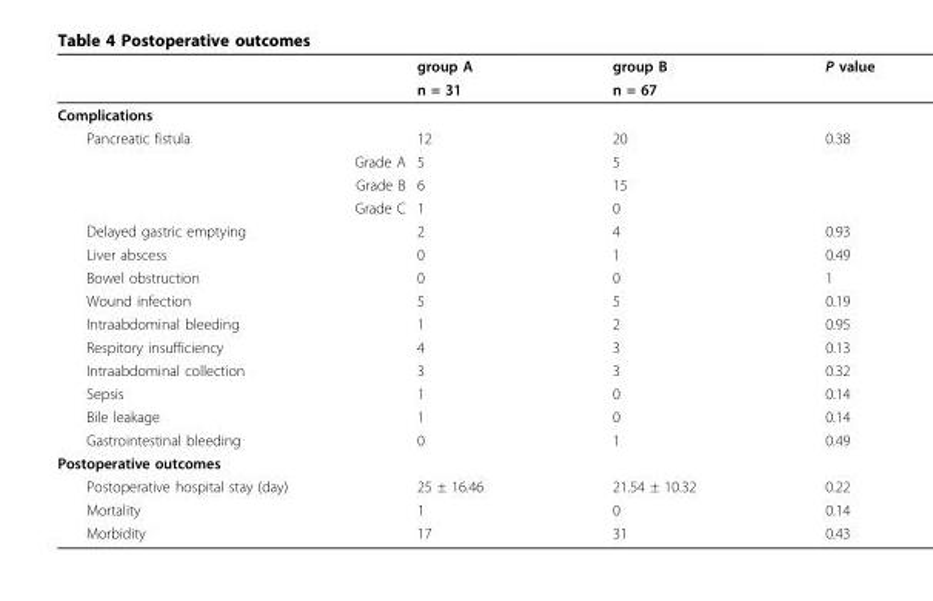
<table><thead><tr><td rowspan="2"></td><td rowspan="2">group A n = 31</td><td rowspan="2">group B n = 67</td><td rowspan="2">P value</td></tr><tr></tr></thead><tbody><tr><td colspan="4">Complications</td></tr><tr><td>Pancreatic fistula</td><td>12</td><td>20</td><td>0.38</td></tr><tr><td>Grade A</td><td>5</td><td>5</td><td></td></tr><tr><td>Grade B</td><td>6</td><td>15</td><td></td></tr><tr><td>Grade C</td><td>1</td><td>0</td><td></td></tr><tr><td>Delayed gastric emptying</td><td>2</td><td>4</td><td>0.93</td></tr><tr><td>Liver abscess</td><td>0</td><td>1</td><td>0.49</td></tr><tr><td>Bowel obstruction</td><td>0</td><td>0</td><td>1</td></tr><tr><td>Wound infection</td><td>5</td><td>5</td><td>0.19</td></tr><tr><td>Intraabdominal bleeding</td><td>1</td><td>2</td><td>0.95</td></tr><tr><td>Respitory insufficiency</td><td>4</td><td>3</td><td>0.13</td></tr><tr><td>Intraabdominal collection</td><td>3</td><td>3</td><td>0.32</td></tr><tr><td>Sepsis</td><td>1</td><td>0</td><td>0.14</td></tr><tr><td>Bile leakage</td><td>1</td><td>0</td><td>0.14</td></tr><tr><td>Gastrointestinal bleeding</td><td>0</td><td>1</td><td>0.49</td></tr><tr><td colspan="4">Postoperative outcomes</td></tr><tr><td>Postoperative hospital stay (day)</td><td>25 ± 16.46</td><td>21.54 ± 10.32</td><td>0.22</td></tr><tr><td>Mortality</td><td>1</td><td>0</td><td>0.14</td></tr><tr><td>Morbidity</td><td>17</td><td>31</td><td>0.43</td></tr></tbody></table>